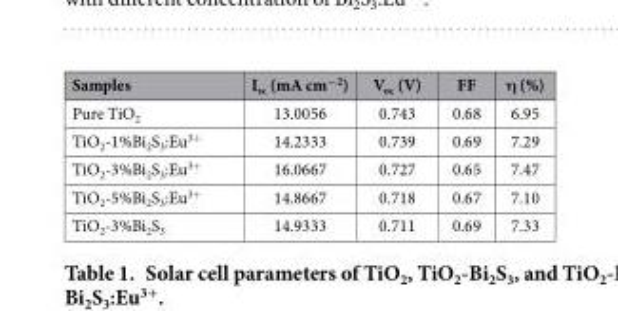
<table><thead><tr><td>Samples</td><td>I<sub>sc</sub> (mA cm<sup>−2</sup>)</td><td>V<sub>oc</sub> (V)</td><td>FF</td><td>η (%)</td></tr></thead><tbody><tr><td>Pure TiO<sub>2</sub></td><td>13.0056</td><td>0.743</td><td>0.68</td><td>6.95</td></tr><tr><td>TiO<sub>2</sub>-1%Bi<sub>2</sub>S<sub>3</sub>:Eu<sup>3+</sup></td><td>14.2333</td><td>0.739</td><td>0.69</td><td>7.29</td></tr><tr><td>TiO<sub>2</sub>-3%Bi<sub>2</sub>S<sub>3</sub>:Eu<sup>3+</sup></td><td>16.0667</td><td>0.727</td><td>0.65</td><td>7.47</td></tr><tr><td>TiO<sub>2</sub>-5%Bi<sub>2</sub>S<sub>3</sub>:Eu<sup>3+</sup></td><td>14.8667</td><td>0.718</td><td>0.67</td><td>7.10</td></tr><tr><td>TiO<sub>2</sub>-3%Bi<sub>2</sub>S<sub>3</sub></td><td>14.9333</td><td>0.711</td><td>0.69</td><td>7.33</td></tr></tbody></table>